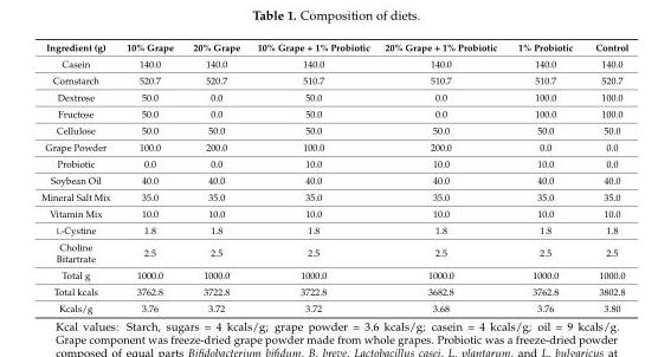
<table><thead><tr><td>Ingredient (g)</td><td>10% Grape</td><td>20% Grape</td><td>10% Grape + 1% Probiotic</td><td>20% Grape + 1% Probiotic</td><td>1% Probiotic</td><td>Control</td></tr></thead><tbody><tr><td>Casein</td><td>140.0</td><td>140.0</td><td>140.0</td><td>140.0</td><td>140.0</td><td>140.0</td></tr><tr><td>Cornstarch</td><td>520.7</td><td>520.7</td><td>510.7</td><td>510.7</td><td>510.7</td><td>520.7</td></tr><tr><td>Dextrose</td><td>50.0</td><td>0.0</td><td>50.0</td><td>0.0</td><td>100.0</td><td>100.0</td></tr><tr><td>Fructose</td><td>50.0</td><td>0.0</td><td>50.0</td><td>0.0</td><td>100.0</td><td>100.0</td></tr><tr><td>Cellulose</td><td>50.0</td><td>50.0</td><td>50.0</td><td>50.0</td><td>50.0</td><td>50.0</td></tr><tr><td>Grape Powder</td><td>100.0</td><td>200.0</td><td>100.0</td><td>200.0</td><td>0.0</td><td>0.0</td></tr><tr><td>Probiotic</td><td>0.0</td><td>0.0</td><td>10.0</td><td>10.0</td><td>10.0</td><td>0.0</td></tr><tr><td>Soybean Oil</td><td>40.0</td><td>40.0</td><td>40.0</td><td>40.0</td><td>40.0</td><td>40.0</td></tr><tr><td>Mineral Salt Mix</td><td>35.0</td><td>35.0</td><td>35.0</td><td>35.0</td><td>35.0</td><td>35.0</td></tr><tr><td>Vitamin Mix</td><td>10.0</td><td>10.0</td><td>10.0</td><td>10.0</td><td>10.0</td><td>10.0</td></tr><tr><td>L-Cystine</td><td>1.8</td><td>1.8</td><td>1.8</td><td>1.8</td><td>1.8</td><td>1.8</td></tr><tr><td>Choline Bitartrate</td><td>2.5</td><td>2.5</td><td>2.5</td><td>2.5</td><td>2.5</td><td>2.5</td></tr><tr><td>Total g</td><td>1000.0</td><td>1000.0</td><td>1000.0</td><td>1000.0</td><td>1000.0</td><td>1000.0</td></tr><tr><td>Total kcals</td><td>3762.8</td><td>3722.8</td><td>3722.8</td><td>3682.8</td><td>3762.8</td><td>3802.8</td></tr><tr><td>Kcals/g</td><td>3.76</td><td>3.72</td><td>3.72</td><td>3.68</td><td>3.76</td><td>3.80</td></tr></tbody></table>